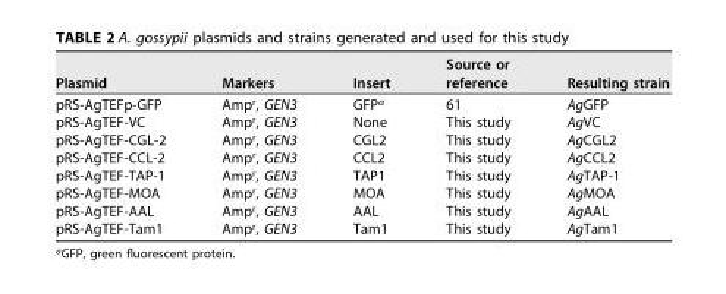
<table><thead><tr><td>Plasmid</td><td>Markers</td><td>Insert</td><td>Source or reference</td><td>Resulting strain</td></tr></thead><tbody><tr><td>pRS-AgTEFp-GFP</td><td>Amp<sup>r</sup>, GEN3</td><td>GFP<sup>a</sup></td><td>61</td><td>AgGFP</td></tr><tr><td>pRS-AgTEF-VC</td><td>Amp<sup>r</sup>, GEN3</td><td>None</td><td>This study</td><td>AgVC</td></tr><tr><td>pRS-AgTEF-CGL-2</td><td>Amp<sup>r</sup>, GEN3</td><td>CGL2</td><td>This study</td><td>AgCGL2</td></tr><tr><td>pRS-AgTEF-CCL-2</td><td>Amp<sup>r</sup>, GEN3</td><td>CCL2</td><td>This study</td><td>AgCCL2</td></tr><tr><td>pRS-AgTEF-TAP-1</td><td>Amp<sup>r</sup>, GEN3</td><td>TAP1</td><td>This study</td><td>AgTAP-1</td></tr><tr><td>pRS-AgTEF-MOA</td><td>Amp<sup>r</sup>, GEN3</td><td>MOA</td><td>This study</td><td>AgMOA</td></tr><tr><td>pRS-AgTEF-AAL</td><td>Amp<sup>r</sup>, GEN3</td><td>AAL</td><td>This study</td><td>AgAAL</td></tr><tr><td>pRS-AgTEF-Tam1</td><td>Amp<sup>r</sup>, GEN3</td><td>Tam1</td><td>This study</td><td>AgTam1</td></tr></tbody></table>